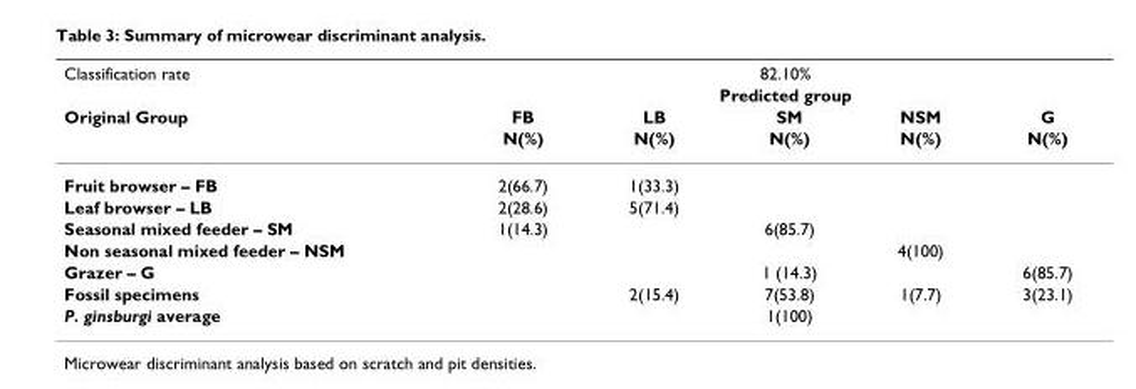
<table><thead><tr><td rowspan="4">Classification rate Original Group</td><td rowspan="2" colspan="5">82.10% Predicted group</td></tr><tr></tr><tr><td rowspan="2">FB N(%)</td><td rowspan="2">LB N(%)</td><td rowspan="2">SM N(%)</td><td rowspan="2">NSM N(%)</td><td rowspan="2">G N(%)</td></tr><tr></tr></thead><tbody><tr><td>Fruit browser – FB</td><td>2(66.7)</td><td>1(33.3)</td><td></td><td></td><td></td></tr><tr><td>Leaf browser – LB</td><td>2(28.6)</td><td>5(71.4)</td><td></td><td></td><td></td></tr><tr><td>Seasonal mixed feeder – SM</td><td>1(14.3)</td><td></td><td>6(85.7)</td><td></td><td></td></tr><tr><td>Non seasonal mixed feeder – NSM</td><td></td><td></td><td></td><td>4(100)</td><td></td></tr><tr><td>Grazer – G</td><td></td><td></td><td>1 (14.3)</td><td></td><td>6(85.7)</td></tr><tr><td>Fossil specimens</td><td></td><td>2(15.4)</td><td>7(53.8)</td><td>1(7.7)</td><td>3(23.1)</td></tr><tr><td>P. ginsburgi average</td><td></td><td></td><td>1(100)</td><td></td><td></td></tr></tbody></table>